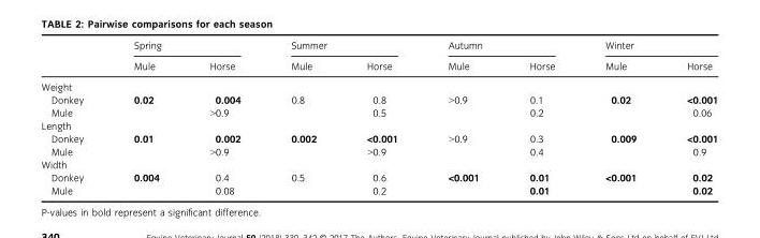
<table><thead><tr><td rowspan="2"></td><td colspan="2">Spring</td><td colspan="2">Summer</td><td colspan="2">Autumn</td><td colspan="2">Winter</td></tr><tr><td>Mule</td><td>Horse</td><td>Mule</td><td>Horse</td><td>Mule</td><td>Horse</td><td>Mule</td><td>Horse</td></tr></thead><tbody><tr><td colspan="9">Weight</td></tr><tr><td>Donkey</td><td>0.02</td><td>0.004</td><td>0.8</td><td>0.8</td><td>&gt;0.9</td><td>0.1</td><td>0.02</td><td>&lt;0.001</td></tr><tr><td>Mule</td><td></td><td>&gt;0.9</td><td></td><td>0.5</td><td></td><td>0.2</td><td></td><td>0.06</td></tr><tr><td colspan="9">Length</td></tr><tr><td>Donkey</td><td>0.01</td><td>0.002</td><td>0.002</td><td>&lt;0.001</td><td>&gt;0.9</td><td>0.3</td><td>0.009</td><td>&lt;0.001</td></tr><tr><td>Mule</td><td></td><td>&gt;0.9</td><td></td><td>&gt;0.9</td><td></td><td>0.4</td><td></td><td>0.9</td></tr><tr><td colspan="9">Width</td></tr><tr><td>Donkey</td><td>0.004</td><td>0.4</td><td>0.5</td><td>0.6</td><td>&lt;0.001</td><td>0.01</td><td>&lt;0.001</td><td>0.02</td></tr><tr><td>Mule</td><td></td><td>0.08</td><td></td><td>0.2</td><td></td><td>0.01</td><td></td><td>0.02</td></tr></tbody></table>